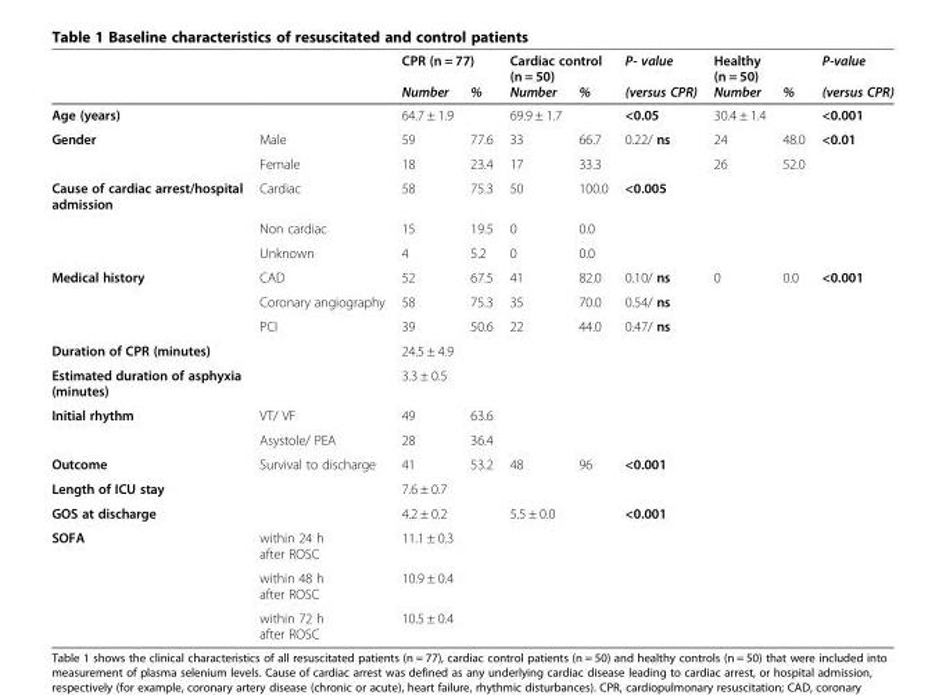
<table><thead><tr><td rowspan="2"></td><td rowspan="2"></td><td colspan="2">CPR (n = 77)</td><td colspan="2">Cardiac control (n = 50)</td><td rowspan="2">P- value (versus CPR)</td><td colspan="2">Healthy (n = 50)</td><td rowspan="2">P-value (versus CPR)</td></tr><tr><td>Number</td><td>%</td><td>Number</td><td>%</td><td>Number</td><td>%</td></tr></thead><tbody><tr><td>Age (years)</td><td></td><td>64.7 ± 1.9</td><td></td><td>69.9 ± 1.7</td><td></td><td>&lt;0.05</td><td>30.4 ± 1.4</td><td></td><td>&lt;0.001</td></tr><tr><td rowspan="2">Gender</td><td>Male</td><td>59</td><td>77.6</td><td>33</td><td>66.7</td><td>0.22/ ns</td><td>24</td><td>48.0</td><td>&lt;0.01</td></tr><tr><td>Female</td><td>18</td><td>23.4</td><td>17</td><td>33.3</td><td></td><td>26</td><td>52.0</td><td></td></tr><tr><td rowspan="3">Cause of cardiac arrest/hospital admission</td><td>Cardiac</td><td>58</td><td>75.3</td><td>50</td><td>100.0</td><td>&lt;0.005</td><td></td><td></td><td></td></tr><tr><td>Non cardiac</td><td>15</td><td>19.5</td><td>0</td><td>0.0</td><td></td><td></td><td></td><td></td></tr><tr><td>Unknown</td><td>4</td><td>5.2</td><td>0</td><td>0.0</td><td></td><td></td><td></td><td></td></tr><tr><td rowspan="3">Medical history</td><td>CAD</td><td>52</td><td>67.5</td><td>41</td><td>82.0</td><td>0.10/ ns</td><td>0</td><td>0.0</td><td>&lt;0.001</td></tr><tr><td>Coronary angiography</td><td>58</td><td>75.3</td><td>35</td><td>70.0</td><td>0.54/ ns</td><td></td><td></td><td></td></tr><tr><td>PCI</td><td>39</td><td>50.6</td><td>22</td><td>44.0</td><td>0.47/ ns</td><td></td><td></td><td></td></tr><tr><td>Duration of CPR (minutes)</td><td></td><td>24.5 ± 4.9</td><td></td><td></td><td></td><td></td><td></td><td></td><td></td></tr><tr><td>Estimated duration of asphyxia (minutes)</td><td></td><td>3.3 ± 0.5</td><td></td><td></td><td></td><td></td><td></td><td></td><td></td></tr><tr><td rowspan="2">Initial rhythm</td><td>VT/ VF</td><td>49</td><td>63.6</td><td></td><td></td><td></td><td></td><td></td><td></td></tr><tr><td>Asystole/ PEA</td><td>28</td><td>36.4</td><td></td><td></td><td></td><td></td><td></td><td></td></tr><tr><td>Outcome</td><td>Survival to discharge</td><td>41</td><td>53.2</td><td>48</td><td>96</td><td>&lt;0.001</td><td></td><td></td><td></td></tr><tr><td>Length of ICU stay</td><td></td><td>7.6 ± 0.7</td><td></td><td></td><td></td><td></td><td></td><td></td><td></td></tr><tr><td>GOS at discharge</td><td></td><td>4.2 ± 0.2</td><td></td><td>5.5 ± 0.0</td><td></td><td>&lt;0.001</td><td></td><td></td><td></td></tr><tr><td rowspan="3">SOFA</td><td>within 24 h after ROSC</td><td>11.1 ± 0.3</td><td></td><td></td><td></td><td></td><td></td><td></td><td></td></tr><tr><td>within 48 h after ROSC</td><td>10.9 ± 0.4</td><td></td><td></td><td></td><td></td><td></td><td></td><td></td></tr><tr><td>within 72 h after ROSC</td><td>10.5 ± 0.4</td><td></td><td></td><td></td><td></td><td></td><td></td><td></td></tr></tbody></table>